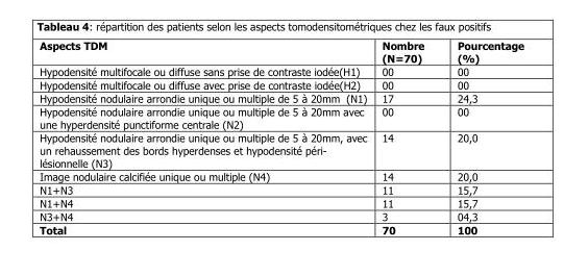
<table><thead><tr><td>Aspects TDM</td><td>Nombre (N=70)</td><td>Pourcentage (%)</td></tr></thead><tbody><tr><td>Hypodensité multifocale ou diffuse sans prise de contraste iodée(H1)</td><td>00</td><td>00</td></tr><tr><td>Hypodensité multifocale ou diffuse avec prise de contraste iodée(H2)</td><td>00</td><td>00</td></tr><tr><td>Hypodensité nodulaire arrondie unique ou multiple de 5 à 20mm (N1)</td><td>17</td><td>24,3</td></tr><tr><td>Hypodensité nodulaire arrondie unique ou multiple de 5 à 20mm avec une hyperdensité punctiforme centrale (N2)</td><td>00</td><td>00</td></tr><tr><td>Hypodensité nodulaire arrondie unique ou multiple de 5 à 20mm, avec un rehaussement des bords hyperdenses et hypodensité péri- lésionnelle (N3)</td><td>14</td><td>20,0</td></tr><tr><td>Image nodulaire calcifiée unique ou multiple (N4)</td><td>14</td><td>20,0</td></tr><tr><td>N1+N3</td><td>11</td><td>15,7</td></tr><tr><td>N1+N4</td><td>11</td><td>15,7</td></tr><tr><td>N3+N4</td><td>3</td><td>04,3</td></tr><tr><td>Total</td><td>70</td><td>100</td></tr></tbody></table>